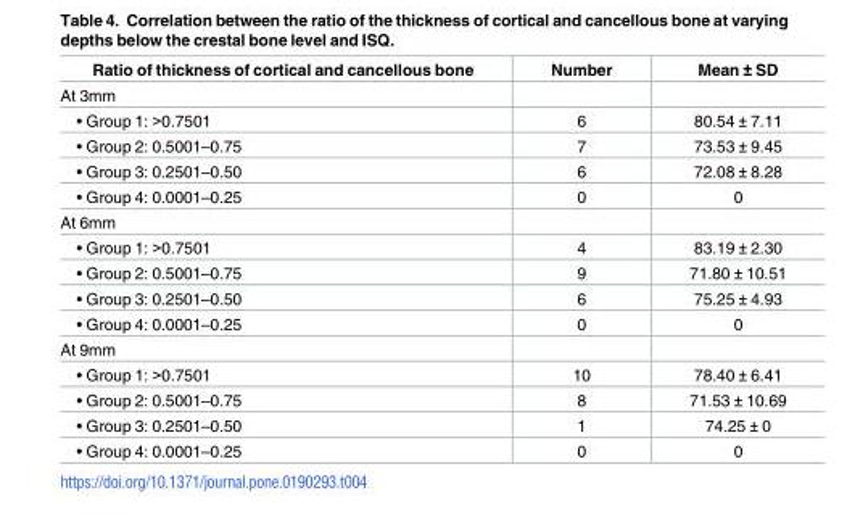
<table><thead><tr><td>Ratio of thickness of cortical and cancellous bone</td><td>Number</td><td>Mean ± SD</td></tr></thead><tbody><tr><td colspan="3">At 3mm</td></tr><tr><td>• Group 1: &gt;0.7501</td><td>6</td><td>80.54 ± 7.11</td></tr><tr><td>• Group 2: 0.5001–0.75</td><td>7</td><td>73.53 ± 9.45</td></tr><tr><td>• Group 3: 0.2501–0.50</td><td>6</td><td>72.08 ± 8.28</td></tr><tr><td>• Group 4: 0.0001–0.25</td><td>0</td><td>0</td></tr><tr><td colspan="3">At 6mm</td></tr><tr><td>• Group 1: &gt;0.7501</td><td>4</td><td>83.19 ± 2.30</td></tr><tr><td>• Group 2: 0.5001–0.75</td><td>9</td><td>71.80 ± 10.51</td></tr><tr><td>• Group 3: 0.2501–0.50</td><td>6</td><td>75.25 ± 4.93</td></tr><tr><td>• Group 4: 0.0001–0.25</td><td>0</td><td>0</td></tr><tr><td colspan="3">At 9mm</td></tr><tr><td>• Group 1: &gt;0.7501</td><td>10</td><td>78.40 ± 6.41</td></tr><tr><td>• Group 2: 0.5001–0.75</td><td>8</td><td>71.53 ± 10.69</td></tr><tr><td>• Group 3: 0.2501–0.50</td><td>1</td><td>74.25 ± 0</td></tr><tr><td>• Group 4: 0.0001–0.25</td><td>0</td><td>0</td></tr></tbody></table>